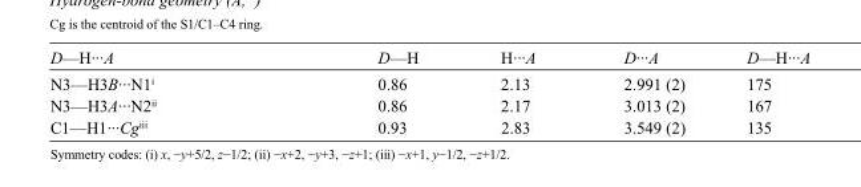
<table><tbody><tr><td>D—H···A</td><td>D—H</td><td>H···A</td><td>D···A</td><td>D—H···A</td></tr><tr><td>N3—H3B···N1<sup>i</sup></td><td>0.86</td><td>2.13</td><td>2.991 (2)</td><td>175</td></tr><tr><td>N3—H3A···N2<sup>ii</sup></td><td>0.86</td><td>2.17</td><td>3.013 (2)</td><td>167</td></tr><tr><td>C1—H1···Cg<sup>iii</sup></td><td>0.93</td><td>2.83</td><td>3.549 (2)</td><td>135</td></tr></tbody></table>